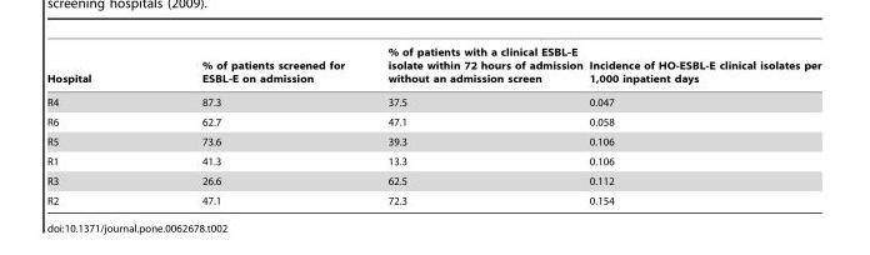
<table><thead><tr><td>Hospital</td><td>% of patients screened for ESBL-E on admission</td><td>% of patients with a clinical ESBL-E isolate within 72 hours of admission without an admission screen</td><td>Incidence of HO-ESBL-E clinical isolates per 1,000 inpatient days</td></tr></thead><tbody><tr><td>R4</td><td>87.3</td><td>37.5</td><td>0.047</td></tr><tr><td>R6</td><td>62.7</td><td>47.1</td><td>0.058</td></tr><tr><td>R5</td><td>73.6</td><td>39.3</td><td>0.106</td></tr><tr><td>R1</td><td>41.3</td><td>13.3</td><td>0.106</td></tr><tr><td>R3</td><td>26.6</td><td>62.5</td><td>0.112</td></tr><tr><td>R2</td><td>47.1</td><td>72.3</td><td>0.154</td></tr></tbody></table>